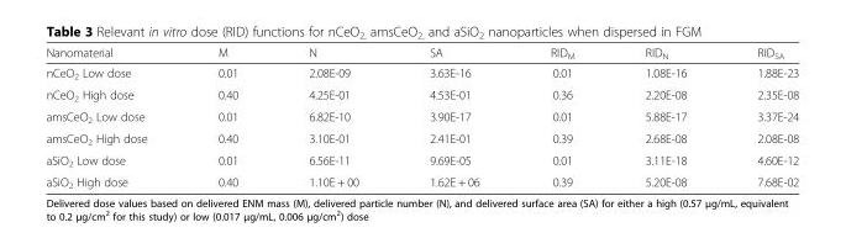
<table><thead><tr><td>Nanomaterial</td><td>M</td><td>N</td><td>SA</td><td>RID<sub>M</sub></td><td>RID<sub>N</sub></td><td>RID<sub>SA</sub></td></tr></thead><tbody><tr><td>nCeO<sub>2</sub> Low dose</td><td>0.01</td><td>2.08E-09</td><td>3.63E-16</td><td>0.01</td><td>1.08E-16</td><td>1.88E-23</td></tr><tr><td>nCeO<sub>2</sub> High dose</td><td>0.40</td><td>4.25E-01</td><td>4.53E-01</td><td>0.36</td><td>2.20E-08</td><td>2.35E-08</td></tr><tr><td>amsCeO<sub>2</sub> Low dose</td><td>0.01</td><td>6.82E-10</td><td>3.90E-17</td><td>0.01</td><td>5.88E-17</td><td>3.37E-24</td></tr><tr><td>amsCeO<sub>2</sub> High dose</td><td>0.40</td><td>3.10E-01</td><td>2.41E-01</td><td>0.39</td><td>2.68E-08</td><td>2.08E-08</td></tr><tr><td>aSiO<sub>2</sub> Low dose</td><td>0.01</td><td>6.56E-11</td><td>9.69E-05</td><td>0.01</td><td>3.11E-18</td><td>4.60E-12</td></tr><tr><td>aSiO<sub>2</sub> High dose</td><td>0.40</td><td>1.10E + 00</td><td>1.62E + 06</td><td>0.39</td><td>5.20E-08</td><td>7.68E-02</td></tr></tbody></table>